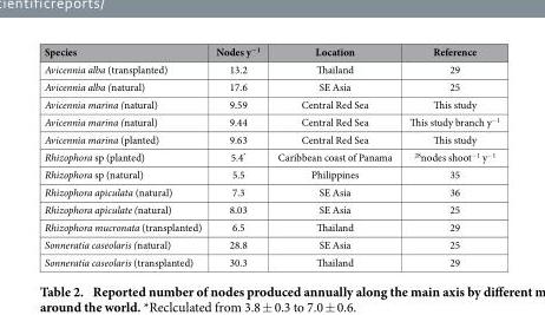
<table><thead><tr><td>Species</td><td>Nodes y<sup>−1</sup></td><td>Location</td><td>Reference</td></tr></thead><tbody><tr><td>Avicennia alba (transplanted)</td><td>13.2</td><td>Thailand</td><td>29</td></tr><tr><td>Avicennia alba (natural)</td><td>17.6</td><td>SE Asia</td><td>25</td></tr><tr><td>Avicennia marina (natural)</td><td>9.59</td><td>Central Red Sea</td><td>This study</td></tr><tr><td>Avicennia marina (natural)</td><td>9.44</td><td>Central Red Sea</td><td>This study branch y<sup>−1</sup></td></tr><tr><td>Avicennia marina (planted)</td><td>9.63</td><td>Central Red Sea</td><td>This study</td></tr><tr><td>Rhizophora sp (planted)</td><td>5.4*</td><td>Caribbean coast of Panama</td><td>28nodes shoot<sup>−1</sup> y<sup>−1</sup></td></tr><tr><td>Rhizophora sp (natural)</td><td>5.5</td><td>Philippines</td><td>35</td></tr><tr><td>Rhizophora apiculata (natural)</td><td>7.3</td><td>SE Asia</td><td>36</td></tr><tr><td>Rhizophora apiculate (natural)</td><td>8.03</td><td>SE Asia</td><td>25</td></tr><tr><td>Rhizophora mucronata (transplanted)</td><td>6.5</td><td>Thailand</td><td>29</td></tr><tr><td>Sonneratia caseolaris (natural)</td><td>28.8</td><td>SE Asia</td><td>25</td></tr><tr><td>Sonneratia caseolaris (transplanted)</td><td>30.3</td><td>Thailand</td><td>29</td></tr></tbody></table>